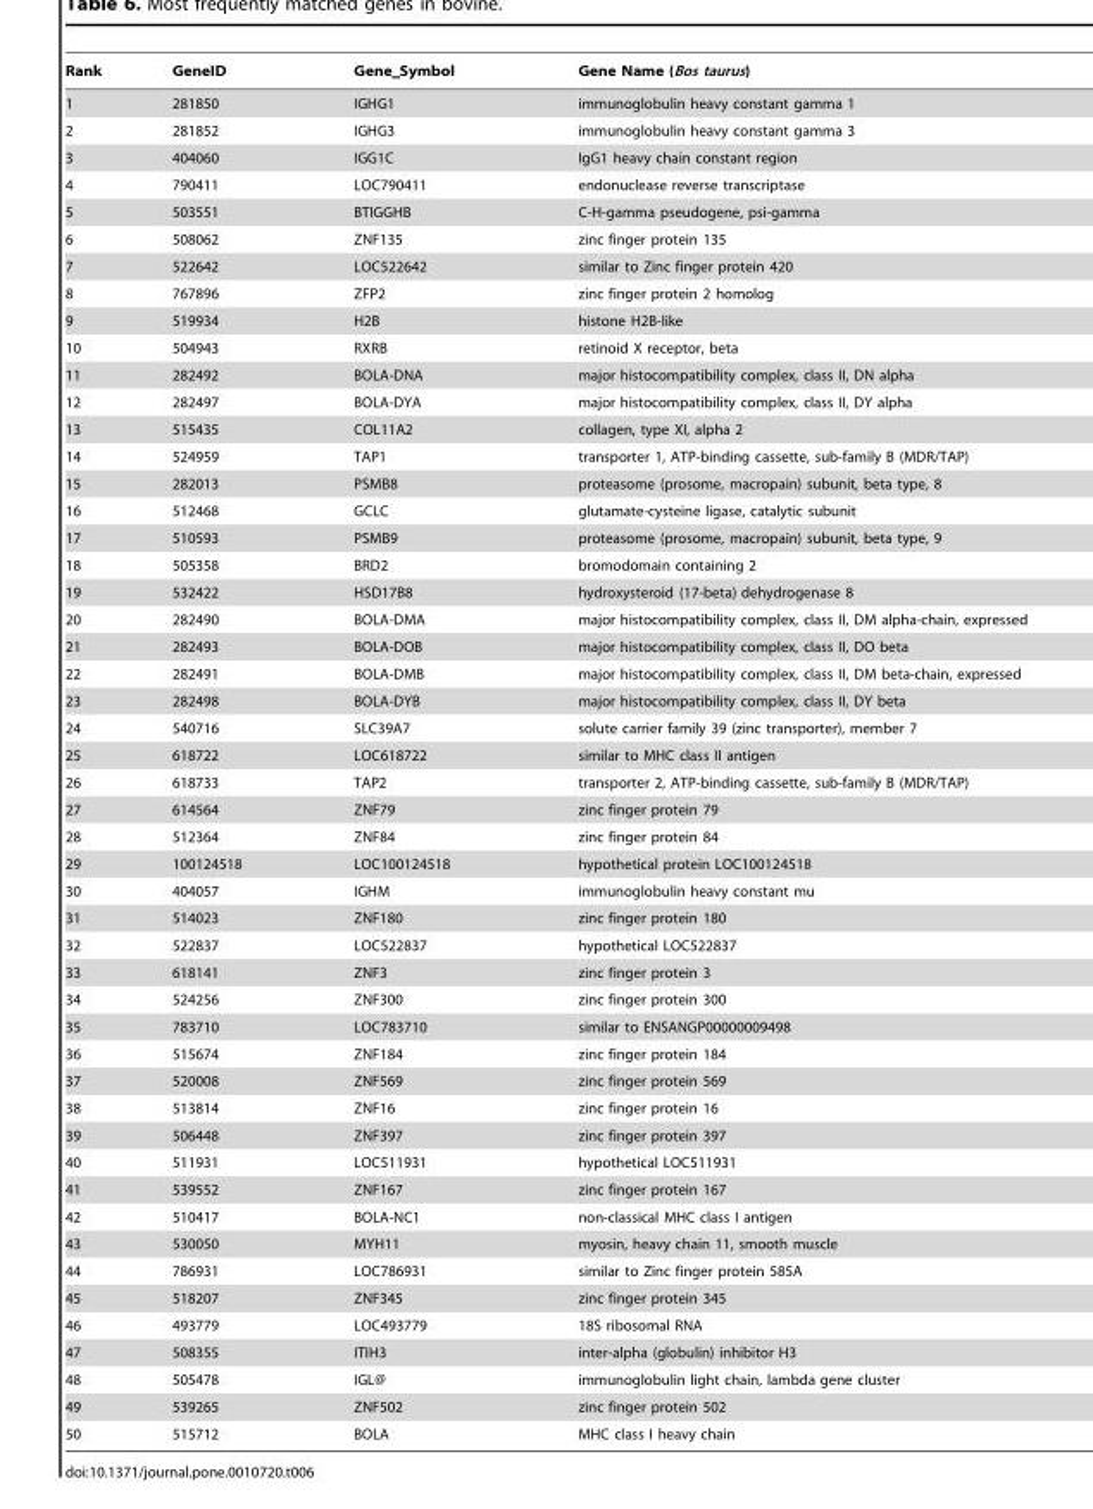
<table><thead><tr><td>Rank</td><td>GeneID</td><td>Gene__Symbol</td><td>Gene Name (Bos taurus)</td></tr></thead><tbody><tr><td>1</td><td>281850</td><td>IGHG1</td><td>immunoglobulin heavy constant gamma 1</td></tr><tr><td>2</td><td>281852</td><td>IGHG3</td><td>immunoglobulin heavy constant gamma 3</td></tr><tr><td>3</td><td>404060</td><td>IGG1C</td><td>IgG1 heavy chain constant region</td></tr><tr><td>4</td><td>790411</td><td>LOC790411</td><td>endonuclease reverse transcriptase</td></tr><tr><td>5</td><td>503551</td><td>BTIGGHB</td><td>C-H-gamma pseudogene, psi-gamma</td></tr><tr><td>6</td><td>508062</td><td>ZNF135</td><td>zinc finger protein 135</td></tr><tr><td>7</td><td>522642</td><td>LOC522642</td><td>similar to Zinc finger protein 420</td></tr><tr><td>8</td><td>767896</td><td>ZFP2</td><td>zinc finger protein 2 homolog</td></tr><tr><td>9</td><td>519934</td><td>H2B</td><td>histone H2B-like</td></tr><tr><td>10</td><td>504943</td><td>RXRB</td><td>retinoid X receptor, beta</td></tr><tr><td>11</td><td>282492</td><td>BOLA-DNA</td><td>major histocompatibility complex, class II, DN alpha</td></tr><tr><td>12</td><td>282497</td><td>BOLA-DYA</td><td>major histocompatibility complex, class II, DY alpha</td></tr><tr><td>13</td><td>515435</td><td>COL11A2</td><td>collagen, type XI, alpha 2</td></tr><tr><td>14</td><td>524959</td><td>TAP1</td><td>transporter 1, ATP-binding cassette, sub-family B (MDR/TAP)</td></tr><tr><td>15</td><td>282013</td><td>PSMB8</td><td>proteasome (prosome, macropain) subunit, beta type, 8</td></tr><tr><td>16</td><td>512468</td><td>GCLC</td><td>glutamate-cysteine ligase, catalytic subunit</td></tr><tr><td>17</td><td>510593</td><td>PSMB9</td><td>proteasome (prosome, macropain) subunit, beta type, 9</td></tr><tr><td>18</td><td>505358</td><td>BRD2</td><td>bromodomain containing 2</td></tr><tr><td>19</td><td>532422</td><td>HSD17B8</td><td>hydroxysteroid (17-beta) dehydrogenase 8</td></tr><tr><td>20</td><td>282490</td><td>BOLA-DMA</td><td>major histocompatibility complex, class II, DM alpha-chain, expressed</td></tr><tr><td>21</td><td>282493</td><td>BOLA-DOB</td><td>major histocompatibility complex, class II, DO beta</td></tr><tr><td>22</td><td>282491</td><td>BOLA-DMB</td><td>major histocompatibility complex, class II, DM beta-chain, expressed</td></tr><tr><td>23</td><td>282498</td><td>BOLA-DYB</td><td>major histocompatibility complex, class II, DY beta</td></tr><tr><td>24</td><td>540716</td><td>SLC39A7</td><td>solute carrier family 39 (zinc transporter), member 7</td></tr><tr><td>25</td><td>618722</td><td>LOC618722</td><td>similar to MHC class II antigen</td></tr><tr><td>26</td><td>618733</td><td>TAP2</td><td>transporter 2, ATP-binding cassette, sub-family B (MDR/TAP)</td></tr><tr><td>27</td><td>614564</td><td>ZNF79</td><td>zinc finger protein 79</td></tr><tr><td>28</td><td>512364</td><td>ZNF84</td><td>zinc finger protein 84</td></tr><tr><td>29</td><td>100124518</td><td>LOC100124518</td><td>hypothetical protein LOC100124518</td></tr><tr><td>30</td><td>404057</td><td>IGHM</td><td>immunoglobulin heavy constant mu</td></tr><tr><td>31</td><td>514023</td><td>ZNF180</td><td>zinc finger protein 180</td></tr><tr><td>32</td><td>522837</td><td>LOC522837</td><td>hypothetical LOC522837</td></tr><tr><td>33</td><td>618141</td><td>ZNF3</td><td>zinc finger protein 3</td></tr><tr><td>34</td><td>524256</td><td>ZNF300</td><td>zinc finger protein 300</td></tr><tr><td>35</td><td>783710</td><td>LOC783710</td><td>similar to ENSANGP00000009498</td></tr><tr><td>36</td><td>515674</td><td>ZNF184</td><td>zinc finger protein 184</td></tr><tr><td>37</td><td>520008</td><td>ZNF569</td><td>zinc finger protein 569</td></tr><tr><td>38</td><td>513814</td><td>ZNF16</td><td>zinc finger protein 16</td></tr><tr><td>39</td><td>506448</td><td>ZNF397</td><td>zinc finger protein 397</td></tr><tr><td>40</td><td>511931</td><td>LOC511931</td><td>hypothetical LOC511931</td></tr><tr><td>41</td><td>539552</td><td>ZNF167</td><td>zinc finger protein 167</td></tr><tr><td>42</td><td>510417</td><td>BOLA-NC1</td><td>non-classical MHC class I antigen</td></tr><tr><td>43</td><td>530050</td><td>MYH11</td><td>myosin, heavy chain 11, smooth muscle</td></tr><tr><td>44</td><td>786931</td><td>LOC786931</td><td>similar to Zinc finger protein 585A</td></tr><tr><td>45</td><td>518207</td><td>ZNF345</td><td>zinc finger protein 345</td></tr><tr><td>46</td><td>493779</td><td>LOC493779</td><td>18S ribosomal RNA</td></tr><tr><td>47</td><td>508355</td><td>ITIH3</td><td>inter-alpha (globulin) inhibitor H3</td></tr><tr><td>48</td><td>505478</td><td>IGL@</td><td>immunoglobulin light chain, lambda gene cluster</td></tr><tr><td>49</td><td>539265</td><td>ZNF502</td><td>zinc finger protein 502</td></tr><tr><td>50</td><td>515712</td><td>BOLA</td><td>MHC class I heavy chain</td></tr></tbody></table>